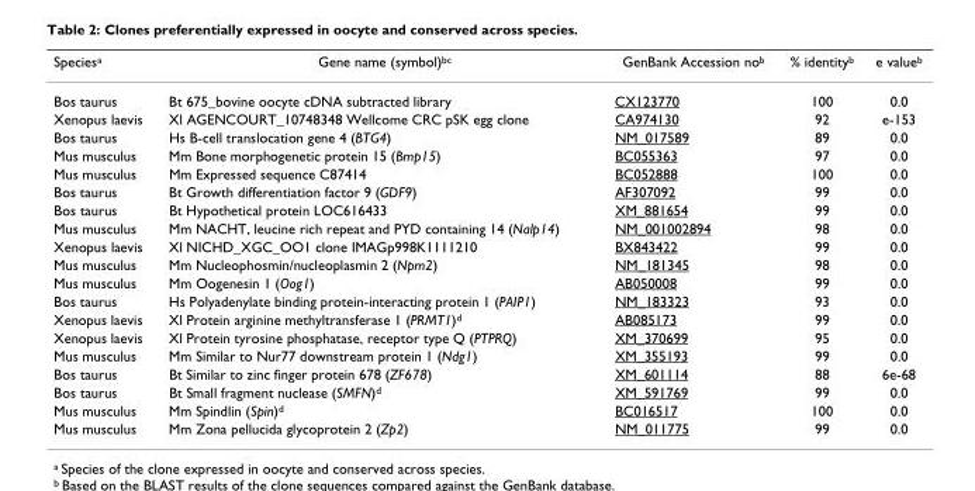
<table><thead><tr><td>Speciesa</td><td>Gene name (symbol)bc</td><td>GenBank Accession nob</td><td>% identityb</td><td>e valueb</td></tr></thead><tbody><tr><td>Bos taurus</td><td>Bt 675_bovine oocyte cDNA subtracted library</td><td>CX123770</td><td>100</td><td>0.0</td></tr><tr><td>Xenopus laevis</td><td>Xl AGENCOURT_10748348 Wellcome CRC pSK egg clone</td><td>CA974130</td><td>92</td><td>e-153</td></tr><tr><td>Bos taurus</td><td>Hs B-cell translocation gene 4 (BTG4)</td><td>NM_017589</td><td>89</td><td>0.0</td></tr><tr><td>Mus musculus</td><td>Mm Bone morphogenetic protein 15 (Bmp15)</td><td>BC055363</td><td>97</td><td>0.0</td></tr><tr><td>Mus musculus</td><td>Mm Expressed sequence C87414</td><td>BC052888</td><td>100</td><td>0.0</td></tr><tr><td>Bos taurus</td><td>Bt Growth differentiation factor 9 (GDF9)</td><td>AF307092</td><td>99</td><td>0.0</td></tr><tr><td>Bos taurus</td><td>Bt Hypothetical protein LOC616433</td><td>XM_881654</td><td>99</td><td>0.0</td></tr><tr><td>Mus musculus</td><td>Mm NACHT, leucine rich repeat and PYD containing 14 (Nalp14)</td><td>NM_001002894</td><td>98</td><td>0.0</td></tr><tr><td>Xenopus laevis</td><td>Xl NICHD_XGC_OO1 clone IMAGp998K1111210</td><td>BX843422</td><td>99</td><td>0.0</td></tr><tr><td>Mus musculus</td><td>Mm Nucleophosmin/nucleoplasmin 2 (Npm2)</td><td>NM_181345</td><td>98</td><td>0.0</td></tr><tr><td>Mus musculus</td><td>Mm Oogenesin 1 (Oog1)</td><td>AB050008</td><td>99</td><td>0.0</td></tr><tr><td>Bos taurus</td><td>Hs Polyadenylate binding protein-interacting protein 1 (PAIP1)</td><td>NM_183323</td><td>93</td><td>0.0</td></tr><tr><td>Xenopus laevis</td><td>Xl Protein arginine methyltransferase 1 (PRMT1)d</td><td>AB085173</td><td>99</td><td>0.0</td></tr><tr><td>Xenopus laevis</td><td>Xl Protein tyrosine phosphatase, receptor type Q (PTPRQ)</td><td>XM_370699</td><td>95</td><td>0.0</td></tr><tr><td>Mus musculus</td><td>Mm Similar to Nur77 downstream protein 1 (Ndg1)</td><td>XM_355193</td><td>99</td><td>0.0</td></tr><tr><td>Bos taurus</td><td>Bt Similar to zinc finger protein 678 (ZF678)</td><td>XM_601114</td><td>88</td><td>6e-68</td></tr><tr><td>Bos taurus</td><td>Bt Small fragment nuclease (SMFN)d</td><td>XM_591769</td><td>99</td><td>0.0</td></tr><tr><td>Mus musculus</td><td>Mm Spindlin (Spin)d</td><td>BC016517</td><td>100</td><td>0.0</td></tr><tr><td>Mus musculus</td><td>Mm Zona pellucida glycoprotein 2 (Zp2)</td><td>NM_011775</td><td>99</td><td>0.0</td></tr></tbody></table>